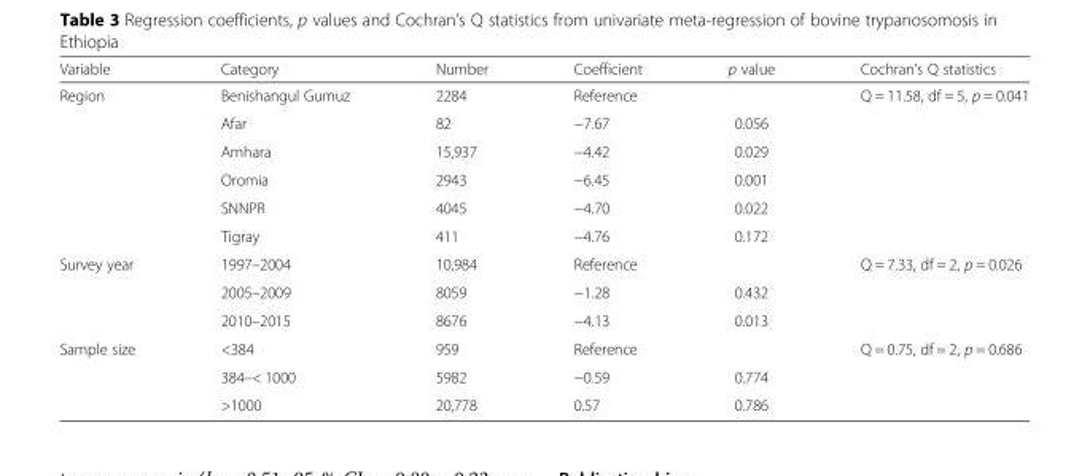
<table><thead><tr><td>Variable</td><td>Category</td><td>Number</td><td>Coefficient</td><td>p value</td><td>Cochran’s Q statistics</td></tr></thead><tbody><tr><td rowspan="6">Region</td><td>Benishangul Gumuz</td><td>2284</td><td>Reference</td><td></td><td rowspan="6">Q = 11.58, df = 5, p = 0.041</td></tr><tr><td>Afar</td><td>82</td><td>−7.67</td><td>0.056</td></tr><tr><td>Amhara</td><td>15,937</td><td>−4.42</td><td>0.029</td></tr><tr><td>Oromia</td><td>2943</td><td>−6.45</td><td>0.001</td></tr><tr><td>SNNPR</td><td>4045</td><td>−4.70</td><td>0.022</td></tr><tr><td>Tigray</td><td>411</td><td>−4.76</td><td>0.172</td></tr><tr><td rowspan="3">Survey year</td><td>1997–2004</td><td>10,984</td><td>Reference</td><td></td><td rowspan="3">Q = 7.33, df = 2, p = 0.026</td></tr><tr><td>2005–2009</td><td>8059</td><td>−1.28</td><td>0.432</td></tr><tr><td>2010–2015</td><td>8676</td><td>−4.13</td><td>0.013</td></tr><tr><td rowspan="3">Sample size</td><td>&lt;384</td><td>959</td><td>Reference</td><td></td><td rowspan="3">Q = 0.75, df = 2, p = 0.686</td></tr><tr><td>384–&lt; 1000</td><td>5982</td><td>−0.59</td><td>0.774</td></tr><tr><td>&gt;1000</td><td>20,778</td><td>0.57</td><td>0.786</td></tr></tbody></table>